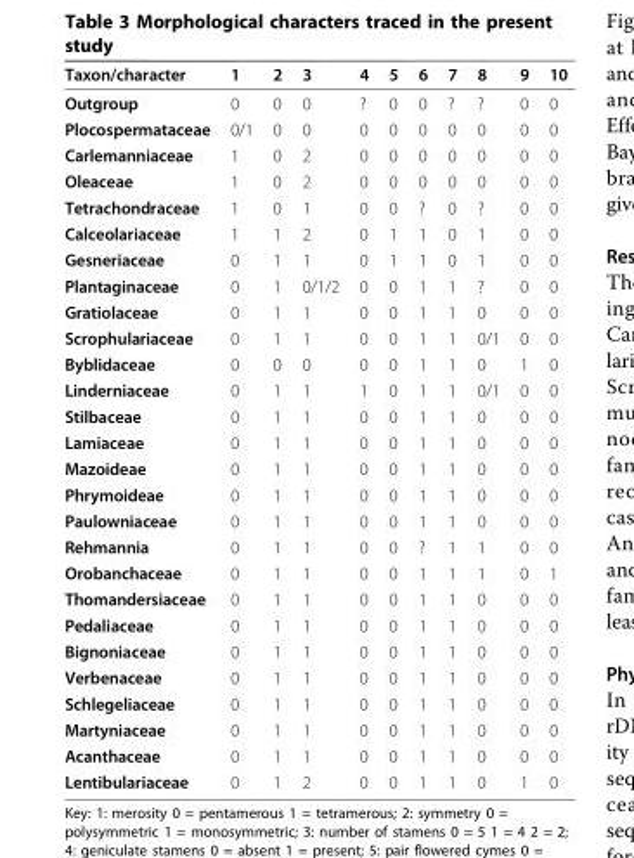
<table><thead><tr><td>Taxon/character</td><td>1</td><td>2</td><td>3</td><td>4</td><td>5</td><td>6</td><td>7</td><td>8</td><td>9</td><td>10</td></tr></thead><tbody><tr><td>Outgroup</td><td>0</td><td>0</td><td>0</td><td>?</td><td>0</td><td>0</td><td>?</td><td>?</td><td>0</td><td>0</td></tr><tr><td>Plocospermataceae</td><td>0/1</td><td>0</td><td>0</td><td>0</td><td>0</td><td>0</td><td>0</td><td>0</td><td>0</td><td>0</td></tr><tr><td>Carlemanniaceae</td><td>1</td><td>0</td><td>2</td><td>0</td><td>0</td><td>0</td><td>0</td><td>0</td><td>0</td><td>0</td></tr><tr><td>Oleaceae</td><td>1</td><td>0</td><td>2</td><td>0</td><td>0</td><td>0</td><td>0</td><td>0</td><td>0</td><td>0</td></tr><tr><td>Tetrachondraceae</td><td>1</td><td>0</td><td>1</td><td>0</td><td>0</td><td>?</td><td>0</td><td>?</td><td>0</td><td>0</td></tr><tr><td>Calceolariaceae</td><td>1</td><td>1</td><td>2</td><td>0</td><td>1</td><td>1</td><td>0</td><td>1</td><td>0</td><td>0</td></tr><tr><td>Gesneriaceae</td><td>0</td><td>1</td><td>1</td><td>0</td><td>1</td><td>1</td><td>0</td><td>1</td><td>0</td><td>0</td></tr><tr><td>Plantaginaceae</td><td>0</td><td>1</td><td>0/1/2</td><td>0</td><td>0</td><td>1</td><td>1</td><td>?</td><td>0</td><td>0</td></tr><tr><td>Gratiolaceae</td><td>0</td><td>1</td><td>1</td><td>0</td><td>0</td><td>1</td><td>1</td><td>0</td><td>0</td><td>0</td></tr><tr><td>Scrophulariaceae</td><td>0</td><td>1</td><td>1</td><td>0</td><td>0</td><td>1</td><td>1</td><td>0/1</td><td>0</td><td>0</td></tr><tr><td>Byblidaceae</td><td>0</td><td>0</td><td>0</td><td>0</td><td>0</td><td>1</td><td>1</td><td>0</td><td>1</td><td>0</td></tr><tr><td>Linderniaceae</td><td>0</td><td>1</td><td>1</td><td>1</td><td>0</td><td>1</td><td>1</td><td>0/1</td><td>0</td><td>0</td></tr><tr><td>Stilbaceae</td><td>0</td><td>1</td><td>1</td><td>0</td><td>0</td><td>1</td><td>1</td><td>0</td><td>0</td><td>0</td></tr><tr><td>Lamiaceae</td><td>0</td><td>1</td><td>1</td><td>0</td><td>0</td><td>1</td><td>1</td><td>0</td><td>0</td><td>0</td></tr><tr><td>Mazoideae</td><td>0</td><td>1</td><td>1</td><td>0</td><td>0</td><td>1</td><td>1</td><td>0</td><td>0</td><td>0</td></tr><tr><td>Phrymoideae</td><td>0</td><td>1</td><td>1</td><td>0</td><td>0</td><td>1</td><td>1</td><td>0</td><td>0</td><td>0</td></tr><tr><td>Paulowniaceae</td><td>0</td><td>1</td><td>1</td><td>0</td><td>0</td><td>1</td><td>1</td><td>0</td><td>0</td><td>0</td></tr><tr><td>Rehmannia</td><td>0</td><td>1</td><td>1</td><td>0</td><td>0</td><td>?</td><td>1</td><td>1</td><td>0</td><td>0</td></tr><tr><td>Orobanchaceae</td><td>0</td><td>1</td><td>1</td><td>0</td><td>0</td><td>1</td><td>1</td><td>1</td><td>0</td><td>1</td></tr><tr><td>Thomandersiaceae</td><td>0</td><td>1</td><td>1</td><td>0</td><td>0</td><td>1</td><td>1</td><td>0</td><td>0</td><td>0</td></tr><tr><td>Pedaliaceae</td><td>0</td><td>1</td><td>1</td><td>0</td><td>0</td><td>1</td><td>1</td><td>0</td><td>0</td><td>0</td></tr><tr><td>Bignoniaceae</td><td>0</td><td>1</td><td>1</td><td>0</td><td>0</td><td>1</td><td>1</td><td>0</td><td>0</td><td>0</td></tr><tr><td>Verbenaceae</td><td>0</td><td>1</td><td>1</td><td>0</td><td>0</td><td>1</td><td>1</td><td>0</td><td>0</td><td>0</td></tr><tr><td>Schlegeliaceae</td><td>0</td><td>1</td><td>1</td><td>0</td><td>0</td><td>1</td><td>1</td><td>0</td><td>0</td><td>0</td></tr><tr><td>Martyniaceae</td><td>0</td><td>1</td><td>1</td><td>0</td><td>0</td><td>1</td><td>1</td><td>0</td><td>0</td><td>0</td></tr><tr><td>Acanthaceae</td><td>0</td><td>1</td><td>1</td><td>0</td><td>0</td><td>1</td><td>1</td><td>0</td><td>0</td><td>0</td></tr><tr><td>Lentibulariaceae</td><td>0</td><td>1</td><td>2</td><td>0</td><td>0</td><td>1</td><td>1</td><td>0</td><td>1</td><td>0</td></tr></tbody></table>